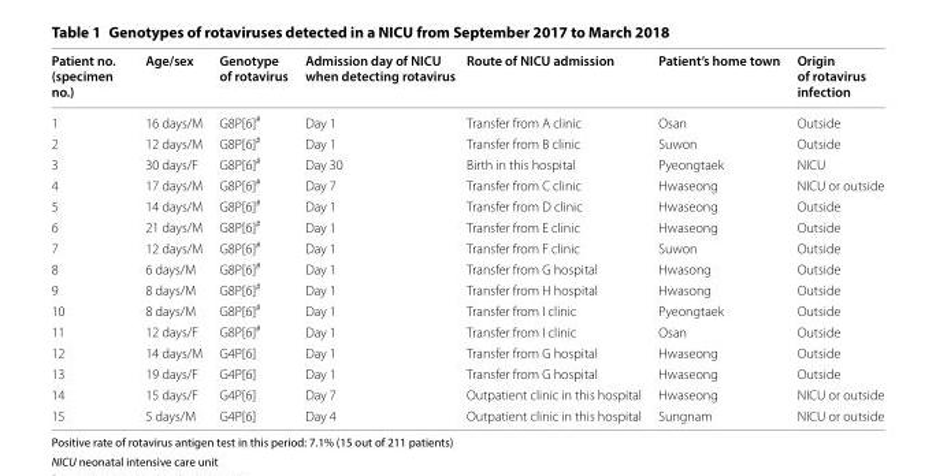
<table><thead><tr><td>Patient no. (specimen no.)</td><td>Age/sex</td><td>Genotype of rotavirus</td><td>Admission day of NICU when detecting rotavirus</td><td>Route of NICU admission</td><td>Patient’s home town</td><td>Origin of rotavirus infection</td></tr></thead><tbody><tr><td>1</td><td>16 days/M</td><td>G8P[6]<sup>#</sup></td><td>Day 1</td><td>Transfer from A clinic</td><td>Osan</td><td>Outside</td></tr><tr><td>2</td><td>12 days/M</td><td>G8P[6]<sup>#</sup></td><td>Day 1</td><td>Transfer from B clinic</td><td>Suwon</td><td>Outside</td></tr><tr><td>3</td><td>30 days/F</td><td>G8P[6]<sup>#</sup></td><td>Day 30</td><td>Birth in this hospital</td><td>Pyeongtaek</td><td>NICU</td></tr><tr><td>4</td><td>17 days/M</td><td>G8P[6]<sup>#</sup></td><td>Day 7</td><td>Transfer from C clinic</td><td>Hwaseong</td><td>NICU or outside</td></tr><tr><td>5</td><td>14 days/M</td><td>G8P[6]<sup>#</sup></td><td>Day 1</td><td>Transfer from D clinic</td><td>Hwaseong</td><td>Outside</td></tr><tr><td>6</td><td>21 days/M</td><td>G8P[6]<sup>#</sup></td><td>Day 1</td><td>Transfer from E clinic</td><td>Hwaseong</td><td>Outside</td></tr><tr><td>7</td><td>12 days/M</td><td>G8P[6]<sup>#</sup></td><td>Day 1</td><td>Transfer from F clinic</td><td>Suwon</td><td>Outside</td></tr><tr><td>8</td><td>6 days/M</td><td>G8P[6]<sup>#</sup></td><td>Day 1</td><td>Transfer from G hospital</td><td>Hwasong</td><td>Outside</td></tr><tr><td>9</td><td>8 days/M</td><td>G8P[6]<sup>#</sup></td><td>Day 1</td><td>Transfer from H hospital</td><td>Hwasong</td><td>Outside</td></tr><tr><td>10</td><td>8 days/M</td><td>G8P[6]<sup>#</sup></td><td>Day 1</td><td>Transfer from I clinic</td><td>Pyeongtaek</td><td>Outside</td></tr><tr><td>11</td><td>12 days/F</td><td>G8P[6]<sup>#</sup></td><td>Day 1</td><td>Transfer from I clinic</td><td>Osan</td><td>Outside</td></tr><tr><td>12</td><td>14 days/M</td><td>G4P[6]</td><td>Day 1</td><td>Transfer from G hospital</td><td>Hwaseong</td><td>Outside</td></tr><tr><td>13</td><td>19 days/F</td><td>G4P[6]</td><td>Day 1</td><td>Transfer from G hospital</td><td>Hwaseong</td><td>Outside</td></tr><tr><td>14</td><td>15 days/F</td><td>G4P[6]</td><td>Day 7</td><td>Outpatient clinic in this hospital</td><td>Hwaseong</td><td>NICU or outside</td></tr><tr><td>15</td><td>5 days/M</td><td>G4P[6]</td><td>Day 4</td><td>Outpatient clinic in this hospital</td><td>Sungnam</td><td>NICU or outside</td></tr></tbody></table>